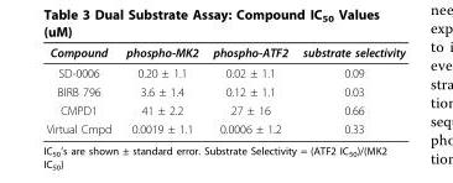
<table><thead><tr><td>Compound</td><td>phospho-MK2</td><td>phospho-ATF2</td><td>substrate selectivity</td></tr></thead><tbody><tr><td>SD-0006</td><td>0.20 ± 1.1</td><td>0.02 ± 1.1</td><td>0.09</td></tr><tr><td>BIRB 796</td><td>3.6 ± 1.4</td><td>0.12 ± 1.1</td><td>0.03</td></tr><tr><td>CMPD1</td><td>41 ± 2.2</td><td>27 ± 16</td><td>0.66</td></tr><tr><td>Virtual Cmpd</td><td>0.0019 ± 1.1</td><td>0.0006 ± 1.2</td><td>0.33</td></tr></tbody></table>